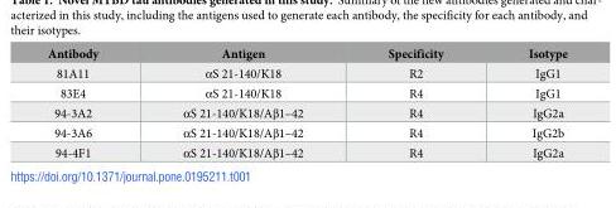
<table><thead><tr><td>Antibody</td><td>Antigen</td><td>Specificity</td><td>Isotype</td></tr></thead><tbody><tr><td>81A11</td><td>αS 21-140/K18</td><td>R2</td><td>IgG1</td></tr><tr><td>83E4</td><td>αS 21-140/K18</td><td>R4</td><td>IgG1</td></tr><tr><td>94-3A2</td><td>αS 21-140/K18/Aβ1–42</td><td>R4</td><td>IgG2a</td></tr><tr><td>94-3A6</td><td>αS 21-140/K18/Aβ1–42</td><td>R4</td><td>IgG2b</td></tr><tr><td>94-4F1</td><td>αS 21-140/K18/Aβ1–42</td><td>R4</td><td>IgG2a</td></tr></tbody></table>